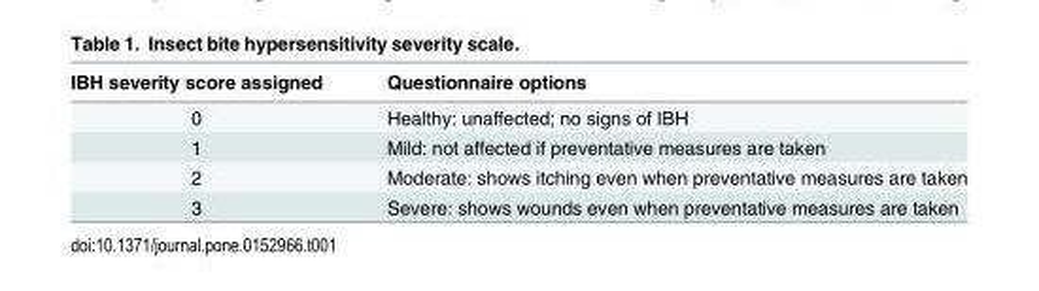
<table><thead><tr><td>IBH severity score assigned</td><td>Questionnaire options</td></tr></thead><tbody><tr><td>0</td><td>Healthy: unaffected; no signs of IBH</td></tr><tr><td>1</td><td>Mild: not affected if preventative measures are taken</td></tr><tr><td>2</td><td>Moderate: shows itching even when preventative measures are taken</td></tr><tr><td>3</td><td>Severe: shows wounds even when preventative measures are taken</td></tr></tbody></table>